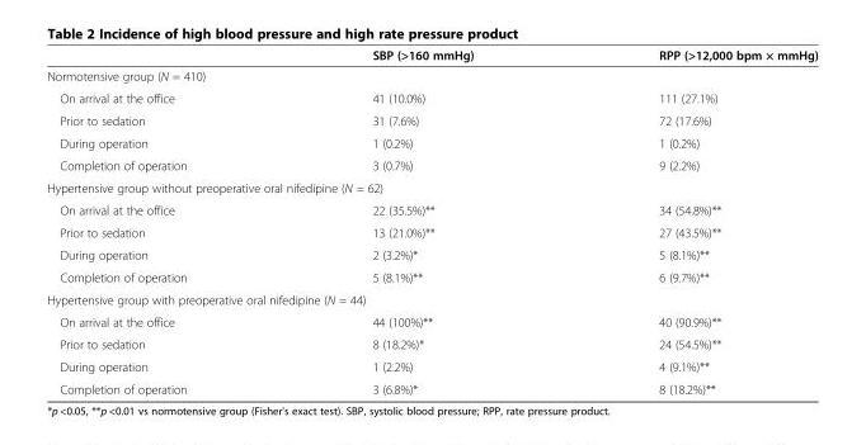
<table><thead><tr><td></td><td>SBP (&gt;160 mmHg)</td><td>RPP (&gt;12,000 bpm × mmHg)</td></tr></thead><tbody><tr><td colspan="3">Normotensive group (N = 410)</td></tr><tr><td>On arrival at the office</td><td>41 (10.0%)</td><td>111 (27.1%)</td></tr><tr><td>Prior to sedation</td><td>31 (7.6%)</td><td>72 (17.6%)</td></tr><tr><td>During operation</td><td>1 (0.2%)</td><td>1 (0.2%)</td></tr><tr><td>Completion of operation</td><td>3 (0.7%)</td><td>9 (2.2%)</td></tr><tr><td colspan="3">Hypertensive group without preoperative oral nifedipine (N = 62)</td></tr><tr><td>On arrival at the office</td><td>22 (35.5%)**</td><td>34 (54.8%)**</td></tr><tr><td>Prior to sedation</td><td>13 (21.0%)**</td><td>27 (43.5%)**</td></tr><tr><td>During operation</td><td>2 (3.2%)*</td><td>5 (8.1%)**</td></tr><tr><td>Completion of operation</td><td>5 (8.1%)**</td><td>6 (9.7%)**</td></tr><tr><td colspan="3">Hypertensive group with preoperative oral nifedipine (N = 44)</td></tr><tr><td>On arrival at the office</td><td>44 (100%)**</td><td>40 (90.9%)**</td></tr><tr><td>Prior to sedation</td><td>8 (18.2%)*</td><td>24 (54.5%)**</td></tr><tr><td>During operation</td><td>1 (2.2%)</td><td>4 (9.1%)**</td></tr><tr><td>Completion of operation</td><td>3 (6.8%)*</td><td>8 (18.2%)**</td></tr></tbody></table>